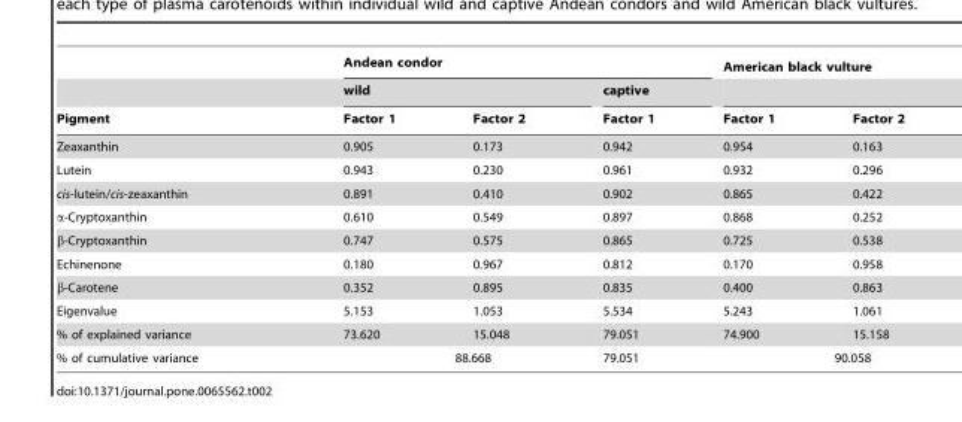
<table><thead><tr><td rowspan="3">Pigment</td><td colspan="3">Andean condor</td><td colspan="2">American black vulture</td></tr><tr><td colspan="2">wild</td><td rowspan="2">captive Factor 1</td><td rowspan="2">Factor 1</td><td rowspan="2">Factor 2</td></tr><tr><td>Factor 1</td><td>Factor 2</td></tr></thead><tbody><tr><td>Zeaxanthin</td><td>0.905</td><td>0.173</td><td>0.942</td><td>0.954</td><td>0.163</td></tr><tr><td>Lutein</td><td>0.943</td><td>0.230</td><td>0.961</td><td>0.932</td><td>0.296</td></tr><tr><td>cis-lutein/cis-zeaxanthin</td><td>0.891</td><td>0.410</td><td>0.902</td><td>0.865</td><td>0.422</td></tr><tr><td>α-Cryptoxanthin</td><td>0.610</td><td>0.549</td><td>0.897</td><td>0.868</td><td>0.252</td></tr><tr><td>β-Cryptoxanthin</td><td>0.747</td><td>0.575</td><td>0.865</td><td>0.725</td><td>0.538</td></tr><tr><td>Echinenone</td><td>0.180</td><td>0.967</td><td>0.812</td><td>0.170</td><td>0.958</td></tr><tr><td>β-Carotene</td><td>0.352</td><td>0.895</td><td>0.835</td><td>0.400</td><td>0.863</td></tr><tr><td>Eigenvalue</td><td>5.153</td><td>1.053</td><td>5.534</td><td>5.243</td><td>1.061</td></tr><tr><td>% of explained variance</td><td>73.620</td><td>15.048</td><td>79.051</td><td>74.900</td><td>15.158</td></tr><tr><td>% of cumulative variance</td><td colspan="2">88.668</td><td>79.051</td><td colspan="2">90.058</td></tr></tbody></table>